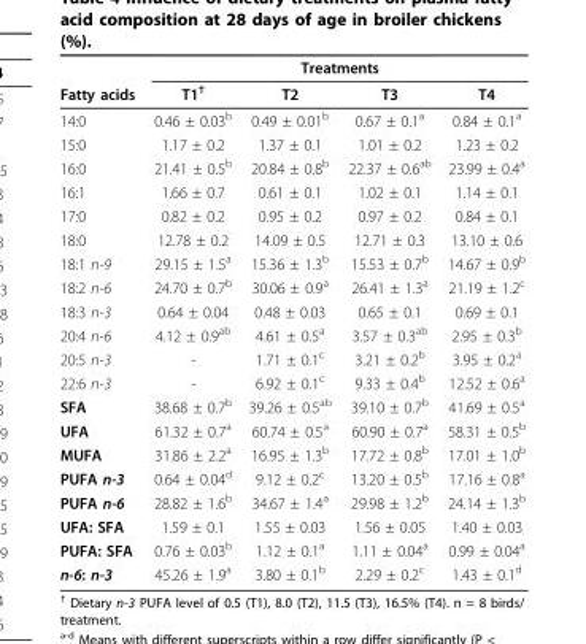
<table><thead><tr><td rowspan="2">Fatty acids</td><td colspan="4">Treatments</td></tr><tr><td>T1<sup>†</sup></td><td>T2</td><td>T3</td><td>T4</td></tr></thead><tbody><tr><td>14:0</td><td>0.46 ± 0.03<sup>b</sup></td><td>0.49 ± 0.01<sup>b</sup></td><td>0.67 ± 0.1<sup>a</sup></td><td>0.84 ± 0.1<sup>a</sup></td></tr><tr><td>15:0</td><td>1.17 ± 0.2</td><td>1.37 ± 0.1</td><td>1.01 ± 0.2</td><td>1.23 ± 0.2</td></tr><tr><td>16:0</td><td>21.41 ± 0.5<sup>b</sup></td><td>20.84 ± 0.8<sup>b</sup></td><td>22.37 ± 0.6<sup>ab</sup></td><td>23.99 ± 0.4<sup>a</sup></td></tr><tr><td>16:1</td><td>1.66 ± 0.7</td><td>0.61 ± 0.1</td><td>1.02 ± 0.1</td><td>1.14 ± 0.1</td></tr><tr><td>17:0</td><td>0.82 ± 0.2</td><td>0.95 ± 0.2</td><td>0.97 ± 0.2</td><td>0.84 ± 0.1</td></tr><tr><td>18:0</td><td>12.78 ± 0.2</td><td>14.09 ± 0.5</td><td>12.71 ± 0.3</td><td>13.10 ± 0.6</td></tr><tr><td>18:1 n-9</td><td>29.15 ± 1.5<sup>a</sup></td><td>15.36 ± 1.3<sup>b</sup></td><td>15.53 ± 0.7<sup>b</sup></td><td>14.67 ± 0.9<sup>b</sup></td></tr><tr><td>18:2 n-6</td><td>24.70 ± 0.7<sup>b</sup></td><td>30.06 ± 0.9<sup>a</sup></td><td>26.41 ± 1.3<sup>a</sup></td><td>21.19 ± 1.2<sup>c</sup></td></tr><tr><td>18:3 n-3</td><td>0.64 ± 0.04</td><td>0.48 ± 0.03</td><td>0.65 ± 0.1</td><td>0.69 ± 0.1</td></tr><tr><td>20:4 n-6</td><td>4.12 ± 0.9<sup>ab</sup></td><td>4.61 ± 0.5<sup>a</sup></td><td>3.57 ± 0.3<sup>ab</sup></td><td>2.95 ± 0.3<sup>b</sup></td></tr><tr><td>20:5 n-3</td><td>-</td><td>1.71 ± 0.1<sup>c</sup></td><td>3.21 ± 0.2<sup>b</sup></td><td>3.95 ± 0.2<sup>a</sup></td></tr><tr><td>22:6 n-3</td><td>-</td><td>6.92 ± 0.1<sup>c</sup></td><td>9.33 ± 0.4<sup>b</sup></td><td>12.52 ± 0.6<sup>a</sup></td></tr><tr><td>SFA</td><td>38.68 ± 0.7<sup>b</sup></td><td>39.26 ± 0.5<sup>ab</sup></td><td>39.10 ± 0.7<sup>b</sup></td><td>41.69 ± 0.5<sup>a</sup></td></tr><tr><td>UFA</td><td>61.32 ± 0.7<sup>a</sup></td><td>60.74 ± 0.5<sup>a</sup></td><td>60.90 ± 0.7<sup>a</sup></td><td>58.31 ± 0.5<sup>b</sup></td></tr><tr><td>MUFA</td><td>31.86 ± 2.2<sup>a</sup></td><td>16.95 ± 1.3<sup>b</sup></td><td>17.72 ± 0.8<sup>b</sup></td><td>17.01 ± 1.0<sup>b</sup></td></tr><tr><td>PUFA n-3</td><td>0.64 ± 0.04<sup>d</sup></td><td>9.12 ± 0.2<sup>c</sup></td><td>13.20 ± 0.5<sup>b</sup></td><td>17.16 ± 0.8<sup>a</sup></td></tr><tr><td>PUFA n-6</td><td>28.82 ± 1.6<sup>b</sup></td><td>34.67 ± 1.4<sup>a</sup></td><td>29.98 ± 1.2<sup>b</sup></td><td>24.14 ± 1.3<sup>b</sup></td></tr><tr><td>UFA: SFA</td><td>1.59 ± 0.1</td><td>1.55 ± 0.03</td><td>1.56 ± 0.05</td><td>1.40 ± 0.03</td></tr><tr><td>PUFA: SFA</td><td>0.76 ± 0.03<sup>b</sup></td><td>1.12 ± 0.1<sup>a</sup></td><td>1.11 ± 0.04<sup>a</sup></td><td>0.99 ± 0.04<sup>a</sup></td></tr><tr><td>n-6: n-3</td><td>45.26 ± 1.9<sup>a</sup></td><td>3.80 ± 0.1<sup>b</sup></td><td>2.29 ± 0.2<sup>c</sup></td><td>1.43 ± 0.1<sup>d</sup></td></tr></tbody></table>